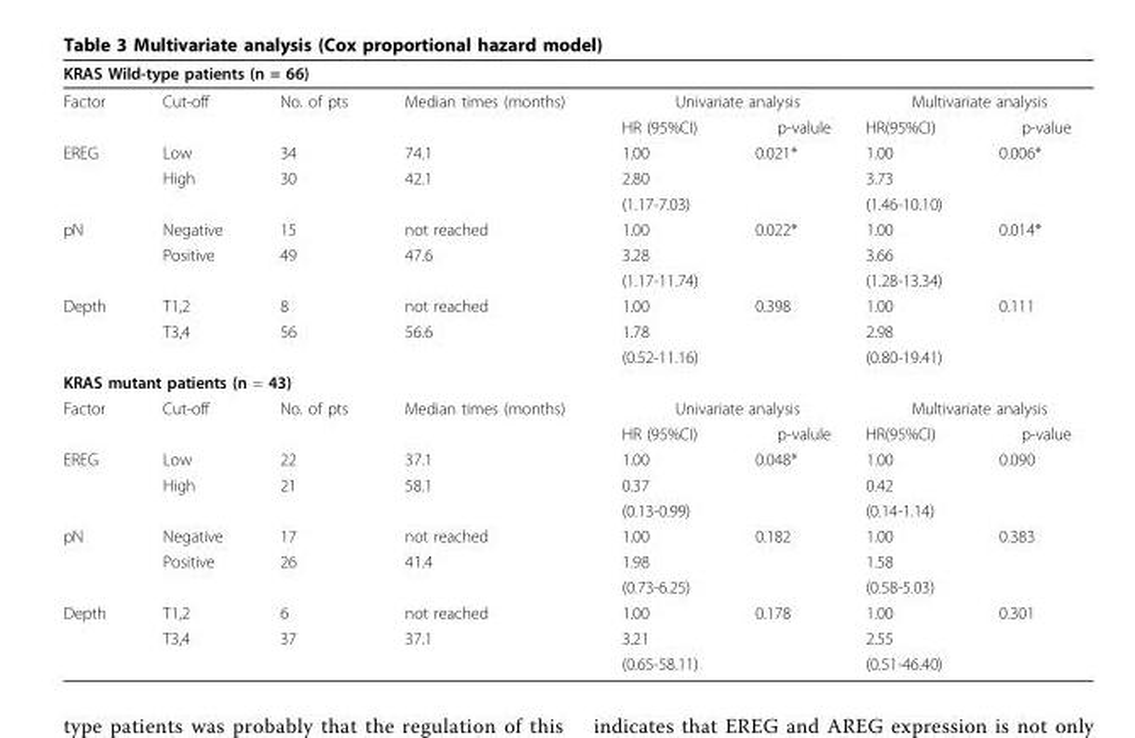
<table><thead><tr><td colspan="4">KRAS Wild-type patients (n = 66)</td><td></td><td></td><td></td><td></td></tr><tr><td>Factor</td><td>Cut-off</td><td>No. of pts</td><td>Median times (months)</td><td colspan="2">Univariate analysis</td><td colspan="2">Multivariate analysis</td></tr></thead><tbody><tr><td></td><td></td><td></td><td></td><td>HR (95%CI)</td><td>p-valule</td><td>HR(95%CI)</td><td>p-value</td></tr><tr><td rowspan="3">EREG</td><td>Low</td><td>34</td><td>74.1</td><td>1.00</td><td>0.021*</td><td>1.00</td><td>0.006*</td></tr><tr><td>High</td><td>30</td><td>42.1</td><td>2.80</td><td></td><td>3.73</td><td></td></tr><tr><td></td><td></td><td></td><td>(1.17-7.03)</td><td></td><td>(1.46-10.10)</td><td></td></tr><tr><td rowspan="3">pN</td><td>Negative</td><td>15</td><td>not reached</td><td>1.00</td><td>0.022*</td><td>1.00</td><td>0.014*</td></tr><tr><td>Positive</td><td>49</td><td>47.6</td><td>3.28</td><td></td><td>3.66</td><td></td></tr><tr><td></td><td></td><td></td><td>(1.17-11.74)</td><td></td><td>(1.28-13.34)</td><td></td></tr><tr><td rowspan="3">Depth</td><td>T1,2</td><td>8</td><td>not reached</td><td>1.00</td><td>0.398</td><td>1.00</td><td>0.111</td></tr><tr><td>T3,4</td><td>56</td><td>56.6</td><td>1.78</td><td></td><td>2.98</td><td></td></tr><tr><td></td><td></td><td></td><td>(0.52-11.16)</td><td></td><td>(0.80-19.41)</td><td></td></tr><tr><td colspan="8">KRAS mutant patients (n = 43)</td></tr><tr><td rowspan="2">Factor</td><td>Cut-off</td><td>No. of pts</td><td>Median times (months)</td><td colspan="2">Univariate analysis</td><td colspan="2">Multivariate analysis</td></tr><tr><td></td><td></td><td></td><td>HR (95%CI)</td><td>p-valule</td><td>HR(95%CI)</td><td>p-value</td></tr><tr><td rowspan="3">EREG</td><td>Low</td><td>22</td><td>37.1</td><td>1.00</td><td>0.048*</td><td>1.00</td><td>0.090</td></tr><tr><td>High</td><td>21</td><td>58.1</td><td>0.37</td><td></td><td>0.42</td><td></td></tr><tr><td></td><td></td><td></td><td>(0.13-0.99)</td><td></td><td>(0.14-1.14)</td><td></td></tr><tr><td rowspan="3">pN</td><td>Negative</td><td>17</td><td>not reached</td><td>1.00</td><td>0.182</td><td>1.00</td><td>0.383</td></tr><tr><td>Positive</td><td>26</td><td>41.4</td><td>1.98</td><td></td><td>1.58</td><td></td></tr><tr><td></td><td></td><td></td><td>(0.73-6.25)</td><td></td><td>(0.58-5.03)</td><td></td></tr><tr><td rowspan="3">Depth</td><td>T1,2</td><td>6</td><td>not reached</td><td>1.00</td><td>0.178</td><td>1.00</td><td>0.301</td></tr><tr><td>T3,4</td><td>37</td><td>37.1</td><td>3.21</td><td></td><td>2.55</td><td></td></tr><tr><td></td><td></td><td></td><td>(0.65-58.11)</td><td></td><td>(0.51-46.40)</td><td></td></tr></tbody></table>